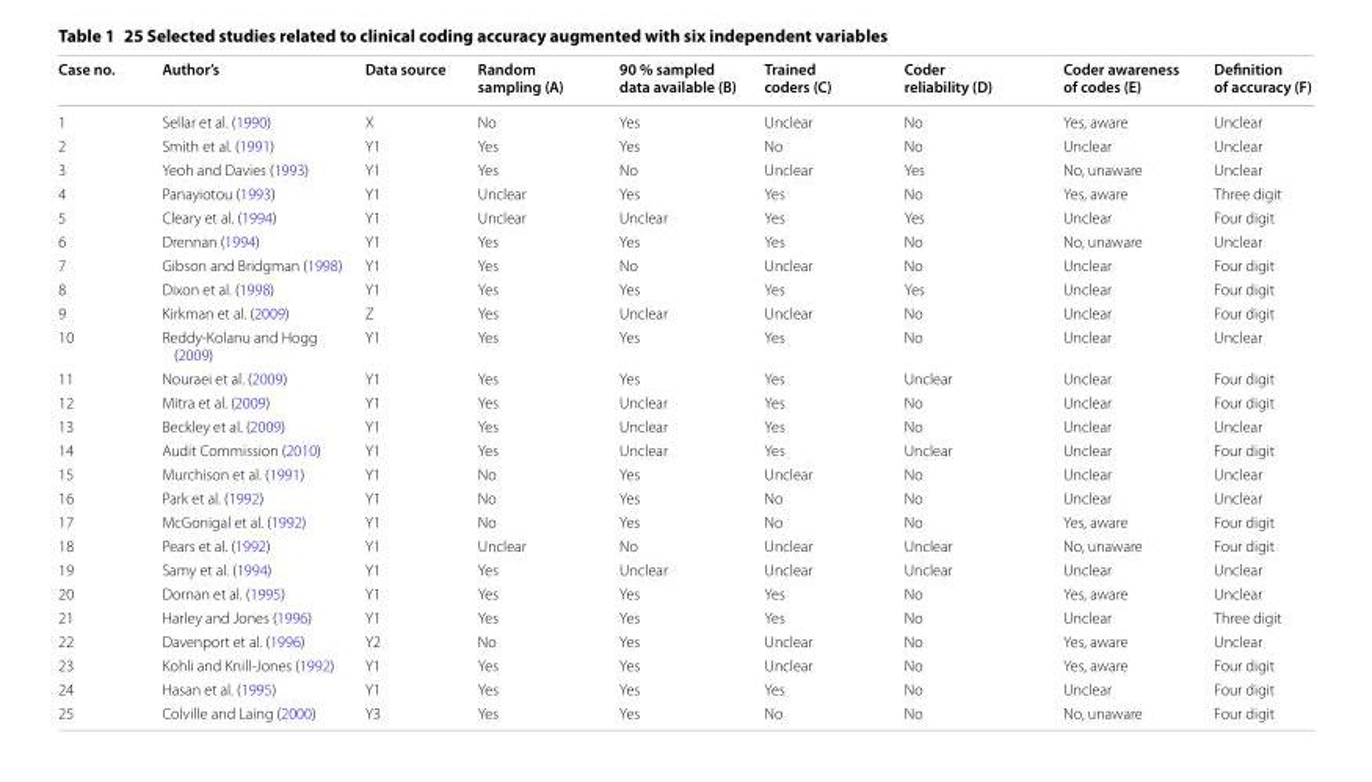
<table><thead><tr><td>Case no.</td><td>Author’s</td><td>Data source</td><td>Random sampling (A)</td><td>90 % sampled data available (B)</td><td>Trained coders (C)</td><td>Coder reliability (D)</td><td>Coder awareness of codes (E)</td><td>Definition of accuracy (F)</td></tr></thead><tbody><tr><td>1</td><td>Sellar et al. (1990)</td><td>X</td><td>No</td><td>Yes</td><td>Unclear</td><td>No</td><td>Yes, aware</td><td>Unclear</td></tr><tr><td>2</td><td>Smith et al. (1991)</td><td>Y1</td><td>Yes</td><td>Yes</td><td>No</td><td>No</td><td>Unclear</td><td>Unclear</td></tr><tr><td>3</td><td>Yeoh and Davies (1993)</td><td>Y1</td><td>Yes</td><td>No</td><td>Unclear</td><td>Yes</td><td>No, unaware</td><td>Unclear</td></tr><tr><td>4</td><td>Panayiotou (1993)</td><td>Y1</td><td>Unclear</td><td>Yes</td><td>Yes</td><td>No</td><td>Yes, aware</td><td>Three digit</td></tr><tr><td>5</td><td>Cleary et al. (1994)</td><td>Y1</td><td>Unclear</td><td>Unclear</td><td>Yes</td><td>Yes</td><td>Unclear</td><td>Four digit</td></tr><tr><td>6</td><td>Drennan (1994)</td><td>Y1</td><td>Yes</td><td>Yes</td><td>Yes</td><td>No</td><td>No, unaware</td><td>Unclear</td></tr><tr><td>7</td><td>Gibson and Bridgman (1998)</td><td>Y1</td><td>Yes</td><td>No</td><td>Unclear</td><td>No</td><td>Unclear</td><td>Four digit</td></tr><tr><td>8</td><td>Dixon et al. (1998)</td><td>Y1</td><td>Yes</td><td>Yes</td><td>Yes</td><td>Yes</td><td>Unclear</td><td>Four digit</td></tr><tr><td>9</td><td>Kirkman et al. (2009)</td><td>Z</td><td>Yes</td><td>Unclear</td><td>Unclear</td><td>No</td><td>Unclear</td><td>Four digit</td></tr><tr><td>10</td><td>Reddy-Kolanu and Hogg (2009)</td><td>Y1</td><td>Yes</td><td>Yes</td><td>Yes</td><td>No</td><td>Unclear</td><td>Unclear</td></tr><tr><td>11</td><td>Nouraei et al. (2009)</td><td>Y1</td><td>Yes</td><td>Yes</td><td>Yes</td><td>Unclear</td><td>Unclear</td><td>Four digit</td></tr><tr><td>12</td><td>Mitra et al. (2009)</td><td>Y1</td><td>Yes</td><td>Unclear</td><td>Yes</td><td>No</td><td>Unclear</td><td>Four digit</td></tr><tr><td>13</td><td>Beckley et al. (2009)</td><td>Y1</td><td>Yes</td><td>Unclear</td><td>Yes</td><td>No</td><td>Unclear</td><td>Unclear</td></tr><tr><td>14</td><td>Audit Commission (2010)</td><td>Y1</td><td>Yes</td><td>Unclear</td><td>Yes</td><td>Unclear</td><td>Unclear</td><td>Four digit</td></tr><tr><td>15</td><td>Murchison et al. (1991)</td><td>Y1</td><td>No</td><td>Yes</td><td>Unclear</td><td>No</td><td>Unclear</td><td>Unclear</td></tr><tr><td>16</td><td>Park et al. (1992)</td><td>Y1</td><td>No</td><td>Yes</td><td>No</td><td>No</td><td>Unclear</td><td>Unclear</td></tr><tr><td>17</td><td>McGonigal et al. (1992)</td><td>Y1</td><td>No</td><td>Yes</td><td>No</td><td>No</td><td>Yes, aware</td><td>Four digit</td></tr><tr><td>18</td><td>Pears et al. (1992)</td><td>Y1</td><td>Unclear</td><td>No</td><td>Unclear</td><td>Unclear</td><td>No, unaware</td><td>Four digit</td></tr><tr><td>19</td><td>Samy et al. (1994)</td><td>Y1</td><td>Yes</td><td>Unclear</td><td>Unclear</td><td>Unclear</td><td>Unclear</td><td>Unclear</td></tr><tr><td>20</td><td>Dornan et al. (1995)</td><td>Y1</td><td>Yes</td><td>Yes</td><td>Yes</td><td>No</td><td>Yes, aware</td><td>Unclear</td></tr><tr><td>21</td><td>Harley and Jones (1996)</td><td>Y1</td><td>Yes</td><td>Yes</td><td>Yes</td><td>No</td><td>Unclear</td><td>Three digit</td></tr><tr><td>22</td><td>Davenport et al. (1996)</td><td>Y2</td><td>No</td><td>Yes</td><td>Unclear</td><td>No</td><td>Yes, aware</td><td>Unclear</td></tr><tr><td>23</td><td>Kohli and Knill-Jones (1992)</td><td>Y1</td><td>Yes</td><td>Yes</td><td>Unclear</td><td>No</td><td>Yes, aware</td><td>Four digit</td></tr><tr><td>24</td><td>Hasan et al. (1995)</td><td>Y1</td><td>Yes</td><td>Yes</td><td>Yes</td><td>No</td><td>Unclear</td><td>Four digit</td></tr><tr><td>25</td><td>Colville and Laing (2000)</td><td>Y3</td><td>Yes</td><td>Yes</td><td>No</td><td>No</td><td>No, unaware</td><td>Four digit</td></tr></tbody></table>